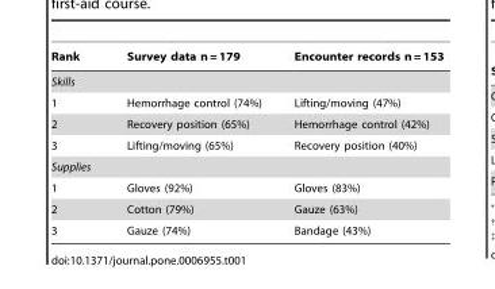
<table><thead><tr><td>Rank</td><td>Survey data n = 179</td><td>Encounter records n = 153</td></tr></thead><tbody><tr><td colspan="3">Skills</td></tr><tr><td>1</td><td>Hemorrhage control (74%)</td><td>Lifting/moving (47%)</td></tr><tr><td>2</td><td>Recovery position (65%)</td><td>Hemorrhage control (42%)</td></tr><tr><td>3</td><td>Lifting/moving (65%)</td><td>Recovery position (40%)</td></tr><tr><td colspan="3">Supplies</td></tr><tr><td>1</td><td>Gloves (92%)</td><td>Gloves (83%)</td></tr><tr><td>2</td><td>Cotton (79%)</td><td>Gauze (63%)</td></tr><tr><td>3</td><td>Gauze (74%)</td><td>Bandage (43%)</td></tr></tbody></table>